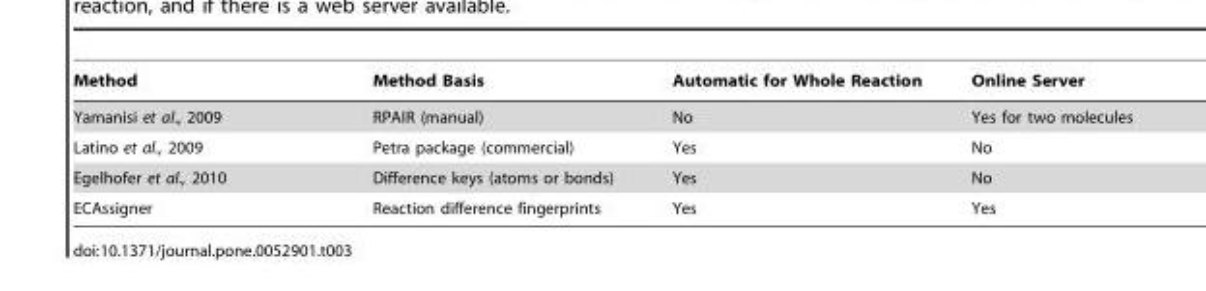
<table><thead><tr><td>Method</td><td>Method Basis</td><td>Automatic for Whole Reaction</td><td>Online Server</td></tr></thead><tbody><tr><td>Yamanisi et al., 2009</td><td>RPAIR (manual)</td><td>No</td><td>Yes for two molecules</td></tr><tr><td>Latino et al., 2009</td><td>Petra package (commercial)</td><td>Yes</td><td>No</td></tr><tr><td>Egelhofer et al., 2010</td><td>Difference keys (atoms or bonds)</td><td>Yes</td><td>No</td></tr><tr><td>ECAssigner</td><td>Reaction difference fingerprints</td><td>Yes</td><td>Yes</td></tr></tbody></table>